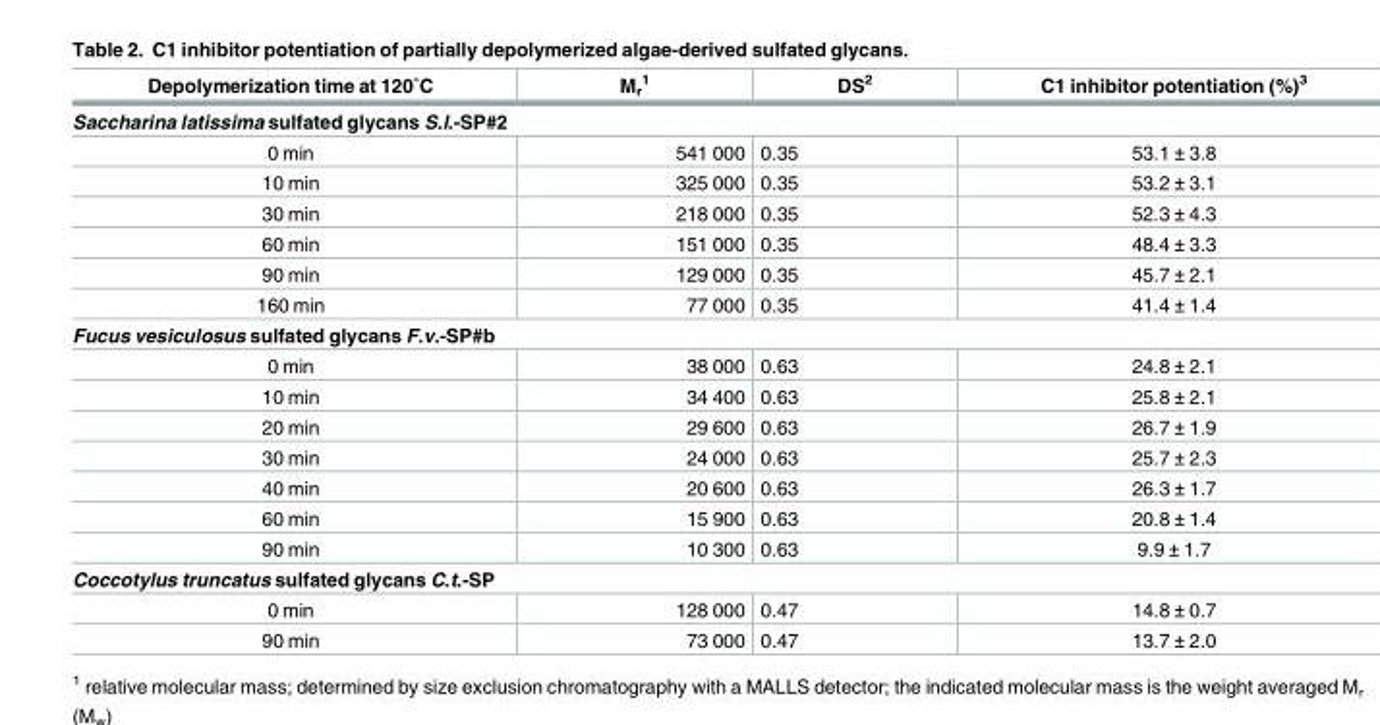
<table><thead><tr><td>Depolymerization time at 120˚C</td><td>M<sub>r</sub> <sup>1</sup></td><td>DS<sup>2</sup></td><td>C1 inhibitor potentiation (%)<sup>3</sup></td></tr></thead><tbody><tr><td colspan="4">Saccharina latissima sulfated glycans S.l.-SP#2</td></tr><tr><td>0 min</td><td>541 000</td><td>0.35</td><td>53.1 ± 3.8</td></tr><tr><td>10 min</td><td>325 000</td><td>0.35</td><td>53.2 ± 3.1</td></tr><tr><td>30 min</td><td>218 000</td><td>0.35</td><td>52.3 ± 4.3</td></tr><tr><td>60 min</td><td>151 000</td><td>0.35</td><td>48.4 ± 3.3</td></tr><tr><td>90 min</td><td>129 000</td><td>0.35</td><td>45.7 ± 2.1</td></tr><tr><td>160 min</td><td>77 000</td><td>0.35</td><td>41.4 ± 1.4</td></tr><tr><td colspan="4">Fucus vesiculosus sulfated glycans F.v.-SP#b</td></tr><tr><td>0 min</td><td>38 000</td><td>0.63</td><td>24.8 ± 2.1</td></tr><tr><td>10 min</td><td>34 400</td><td>0.63</td><td>25.8 ± 2.1</td></tr><tr><td>20 min</td><td>29 600</td><td>0.63</td><td>26.7 ± 1.9</td></tr><tr><td>30 min</td><td>24 000</td><td>0.63</td><td>25.7 ± 2.3</td></tr><tr><td>40 min</td><td>20 600</td><td>0.63</td><td>26.3 ± 1.7</td></tr><tr><td>60 min</td><td>15 900</td><td>0.63</td><td>20.8 ± 1.4</td></tr><tr><td>90 min</td><td>10 300</td><td>0.63</td><td>9.9 ± 1.7</td></tr><tr><td colspan="4">Coccotylus truncatus sulfated glycans C.t.-SP</td></tr><tr><td>0 min</td><td>128 000</td><td>0.47</td><td>14.8 ± 0.7</td></tr><tr><td>90 min</td><td>73 000</td><td>0.47</td><td>13.7 ± 2.0</td></tr></tbody></table>